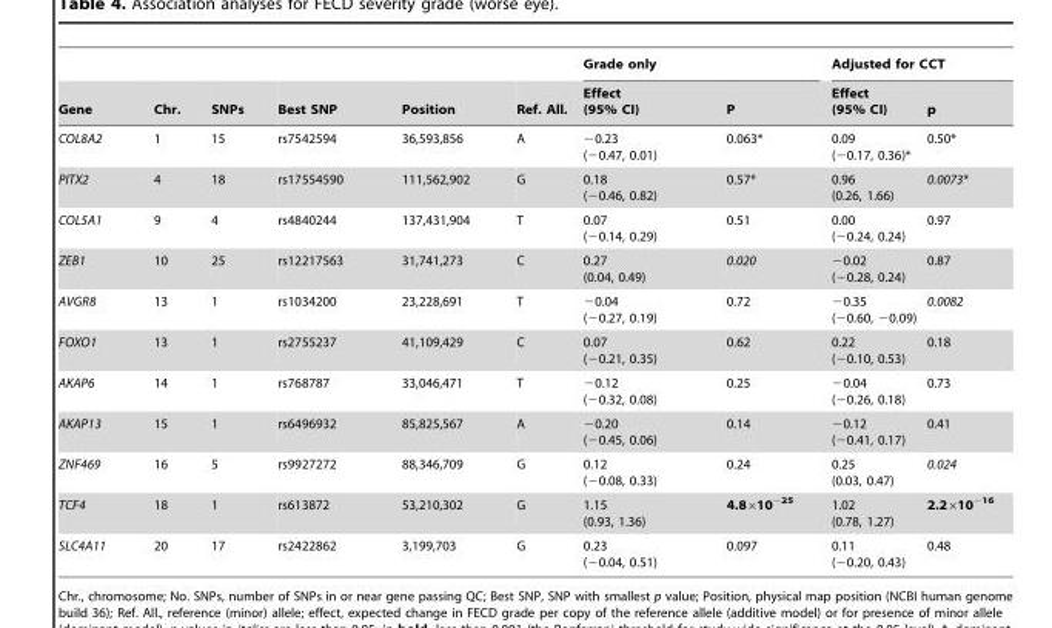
<table><thead><tr><td rowspan="2">Gene</td><td rowspan="2">Chr.</td><td rowspan="2">SNPs</td><td rowspan="2">Best SNP</td><td rowspan="2">Position</td><td rowspan="2">Ref. All.</td><td colspan="2">Grade only</td><td colspan="2">Adjusted for CCT</td></tr><tr><td>Effect (95% CI)</td><td>P</td><td>Effect (95% CI)</td><td>p</td></tr></thead><tbody><tr><td>COL8A2</td><td>1</td><td>15</td><td>rs7542594</td><td>36,593,856</td><td>A</td><td>−0.23 (−0.47, 0.01)</td><td>0.063*</td><td>0.09 (−0.17, 0.36)*</td><td>0.50*</td></tr><tr><td>PITX2</td><td>4</td><td>18</td><td>rs17554590</td><td>111,562,902</td><td>G</td><td>0.18 (−0.46, 0.82)</td><td>0.57*</td><td>0.96 (0.26, 1.66)</td><td>0.0073*</td></tr><tr><td>COL5A1</td><td>9</td><td>4</td><td>rs4840244</td><td>137,431,904</td><td>T</td><td>0.07 (−0.14, 0.29)</td><td>0.51</td><td>0.00 (−0.24, 0.24)</td><td>0.97</td></tr><tr><td>ZEB1</td><td>10</td><td>25</td><td>rs12217563</td><td>31,741,273</td><td>C</td><td>0.27 (0.04, 0.49)</td><td>0.020</td><td>−0.02 (−0.28, 0.24)</td><td>0.87</td></tr><tr><td>AVGR8</td><td>13</td><td>1</td><td>rs1034200</td><td>23,228,691</td><td>T</td><td>−0.04 (−0.27, 0.19)</td><td>0.72</td><td>−0.35 (−0.60, −0.09)</td><td>0.0082</td></tr><tr><td>FOXO1</td><td>13</td><td>1</td><td>rs2755237</td><td>41,109,429</td><td>C</td><td>0.07 (−0.21, 0.35)</td><td>0.62</td><td>0.22 (−0.10, 0.53)</td><td>0.18</td></tr><tr><td>AKAP6</td><td>14</td><td>1</td><td>rs768787</td><td>33,046,471</td><td>T</td><td>−0.12 (−0.32, 0.08)</td><td>0.25</td><td>−0.04 (−0.26, 0.18)</td><td>0.73</td></tr><tr><td>AKAP13</td><td>15</td><td>1</td><td>rs6496932</td><td>85,825,567</td><td>A</td><td>−0.20 (−0.45, 0.06)</td><td>0.14</td><td>−0.12 (−0.41, 0.17)</td><td>0.41</td></tr><tr><td>ZNF469</td><td>16</td><td>5</td><td>rs9927272</td><td>88,346,709</td><td>G</td><td>0.12 (−0.08, 0.33)</td><td>0.24</td><td>0.25 (0.03, 0.47)</td><td>0.024</td></tr><tr><td>TCF4</td><td>18</td><td>1</td><td>rs613872</td><td>53,210,302</td><td>G</td><td>1.15 (0.93, 1.36)</td><td>4.8×10<sup>−25</sup></td><td>1.02 (0.78, 1.27)</td><td>2.2×10<sup>−16</sup></td></tr><tr><td>SLC4A11</td><td>20</td><td>17</td><td>rs2422862</td><td>3,199,703</td><td>G</td><td>0.23 (−0.04, 0.51)</td><td>0.097</td><td>0.11 (−0.20, 0.43)</td><td>0.48</td></tr></tbody></table>